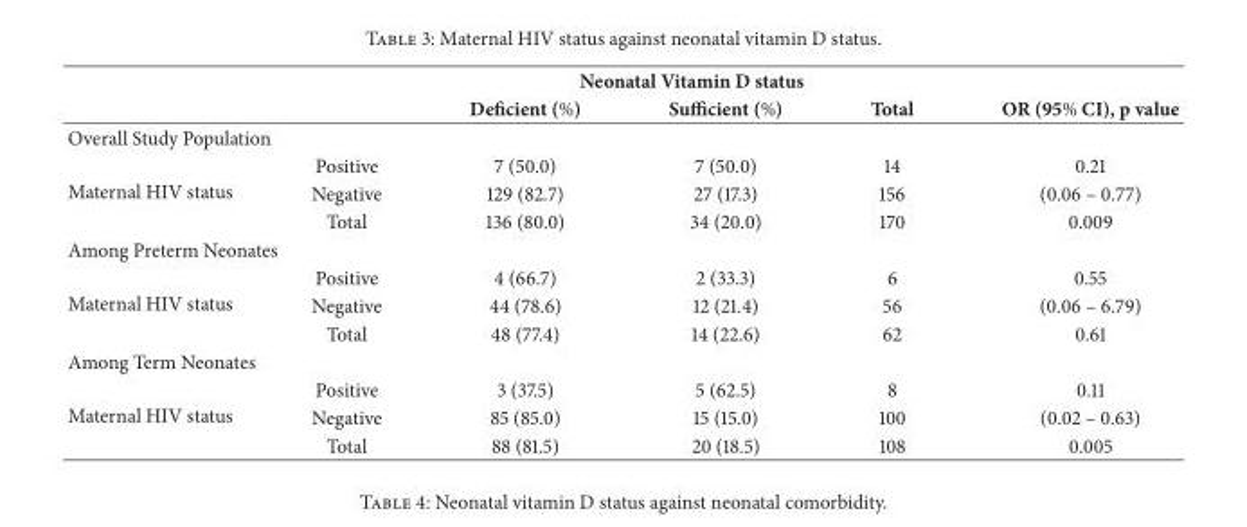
<table><thead><tr><td rowspan="2"></td><td rowspan="2"></td><td colspan="3">Neonatal Vitamin D status</td><td rowspan="2">OR (95% CI), p value</td></tr><tr><td>Deficient (%)</td><td>Sufficient (%)</td><td>Total</td></tr></thead><tbody><tr><td colspan="6">Overall Study Population</td></tr><tr><td rowspan="3">Maternal HIV status</td><td>Positive</td><td>7 (50.0)</td><td>7 (50.0)</td><td>14</td><td>0.21</td></tr><tr><td>Negative</td><td>129 (82.7)</td><td>27 (17.3)</td><td>156</td><td>(0.06 – 0.77)</td></tr><tr><td>Total</td><td>136 (80.0)</td><td>34 (20.0)</td><td>170</td><td>0.009</td></tr><tr><td colspan="6">Among Preterm Neonates</td></tr><tr><td rowspan="3">Maternal HIV status</td><td>Positive</td><td>4 (66.7)</td><td>2 (33.3)</td><td>6</td><td>0.55</td></tr><tr><td>Negative</td><td>44 (78.6)</td><td>12 (21.4)</td><td>56</td><td>(0.06 – 6.79)</td></tr><tr><td>Total</td><td>48 (77.4)</td><td>14 (22.6)</td><td>62</td><td>0.61</td></tr><tr><td colspan="6">Among Term Neonates</td></tr><tr><td rowspan="3">Maternal HIV status</td><td>Positive</td><td>3 (37.5)</td><td>5 (62.5)</td><td>8</td><td>0.11</td></tr><tr><td>Negative</td><td>85 (85.0)</td><td>15 (15.0)</td><td>100</td><td>(0.02 – 0.63)</td></tr><tr><td>Total</td><td>88 (81.5)</td><td>20 (18.5)</td><td>108</td><td>0.005</td></tr></tbody></table>